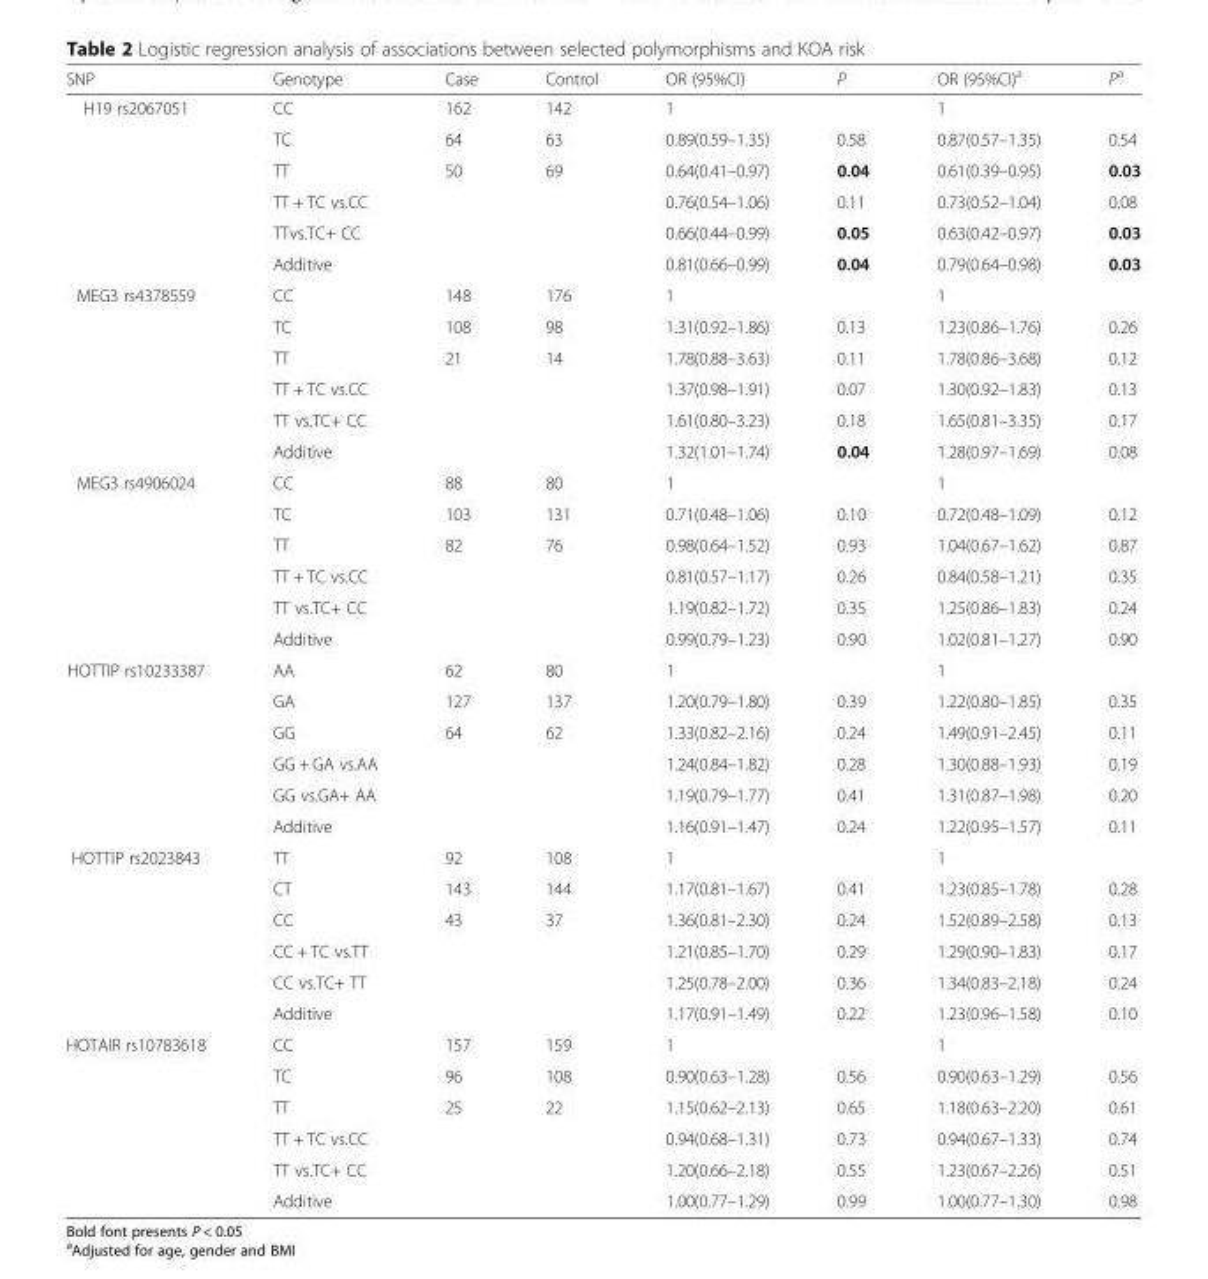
<table><thead><tr><td>SNP</td><td>Genotype</td><td>Case</td><td>Control</td><td>OR (95%CI)</td><td>P</td><td>OR (95%CI)<sup>a</sup></td><td>P<sup>a</sup></td></tr></thead><tbody><tr><td rowspan="6">H19 rs2067051</td><td>CC</td><td>162</td><td>142</td><td>1</td><td></td><td>1</td><td></td></tr><tr><td>TC</td><td>64</td><td>63</td><td>0.89(0.59–1.35)</td><td>0.58</td><td>0.87(0.57–1.35)</td><td>0.54</td></tr><tr><td>TT</td><td>50</td><td>69</td><td>0.64(0.41–0.97)</td><td>0.04</td><td>0.61(0.39–0.95)</td><td>0.03</td></tr><tr><td>TT + TC vs.CC</td><td></td><td></td><td>0.76(0.54–1.06)</td><td>0.11</td><td>0.73(0.52–1.04)</td><td>0.08</td></tr><tr><td>TTvs.TC+ CC</td><td></td><td></td><td>0.66(0.44–0.99)</td><td>0.05</td><td>0.63(0.42–0.97)</td><td>0.03</td></tr><tr><td>Additive</td><td></td><td></td><td>0.81(0.66–0.99)</td><td>0.04</td><td>0.79(0.64–0.98)</td><td>0.03</td></tr><tr><td rowspan="6">MEG3 rs4378559</td><td>CC</td><td>148</td><td>176</td><td>1</td><td></td><td>1</td><td></td></tr><tr><td>TC</td><td>108</td><td>98</td><td>1.31(0.92–1.86)</td><td>0.13</td><td>1.23(0.86–1.76)</td><td>0.26</td></tr><tr><td>TT</td><td>21</td><td>14</td><td>1.78(0.88–3.63)</td><td>0.11</td><td>1.78(0.86–3.68)</td><td>0.12</td></tr><tr><td>TT + TC vs.CC</td><td></td><td></td><td>1.37(0.98–1.91)</td><td>0.07</td><td>1.30(0.92–1.83)</td><td>0.13</td></tr><tr><td>TT vs.TC+ CC</td><td></td><td></td><td>1.61(0.80–3.23)</td><td>0.18</td><td>1.65(0.81–3.35)</td><td>0.17</td></tr><tr><td>Additive</td><td></td><td></td><td>1.32(1.01–1.74)</td><td>0.04</td><td>1.28(0.97–1.69)</td><td>0.08</td></tr><tr><td rowspan="6">MEG3 rs4906024</td><td>CC</td><td>88</td><td>80</td><td>1</td><td></td><td>1</td><td></td></tr><tr><td>TC</td><td>103</td><td>131</td><td>0.71(0.48–1.06)</td><td>0.10</td><td>0.72(0.48–1.09)</td><td>0.12</td></tr><tr><td>TT</td><td>82</td><td>76</td><td>0.98(0.64–1.52)</td><td>0.93</td><td>1.04(0.67–1.62)</td><td>0.87</td></tr><tr><td>TT + TC vs.CC</td><td></td><td></td><td>0.81(0.57–1.17)</td><td>0.26</td><td>0.84(0.58–1.21)</td><td>0.35</td></tr><tr><td>TT vs.TC+ CC</td><td></td><td></td><td>1.19(0.82–1.72)</td><td>0.35</td><td>1.25(0.86–1.83)</td><td>0.24</td></tr><tr><td>Additive</td><td></td><td></td><td>0.99(0.79–1.23)</td><td>0.90</td><td>1.02(0.81–1.27)</td><td>0.90</td></tr><tr><td rowspan="6">HOTTIP rs10233387</td><td>AA</td><td>62</td><td>80</td><td>1</td><td></td><td>1</td><td></td></tr><tr><td>GA</td><td>127</td><td>137</td><td>1.20(0.79–1.80)</td><td>0.39</td><td>1.22(0.80–1.85)</td><td>0.35</td></tr><tr><td>GG</td><td>64</td><td>62</td><td>1.33(0.82–2.16)</td><td>0.24</td><td>1.49(0.91–2.45)</td><td>0.11</td></tr><tr><td>GG + GA vs.AA</td><td></td><td></td><td>1.24(0.84–1.82)</td><td>0.28</td><td>1.30(0.88–1.93)</td><td>0.19</td></tr><tr><td>GG vs.GA+ AA</td><td></td><td></td><td>1.19(0.79–1.77)</td><td>0.41</td><td>1.31(0.87–1.98)</td><td>0.20</td></tr><tr><td>Additive</td><td></td><td></td><td>1.16(0.91–1.47)</td><td>0.24</td><td>1.22(0.95–1.57)</td><td>0.11</td></tr><tr><td rowspan="6">HOTTIP rs2023843</td><td>TT</td><td>92</td><td>108</td><td>1</td><td></td><td>1</td><td></td></tr><tr><td>CT</td><td>143</td><td>144</td><td>1.17(0.81–1.67)</td><td>0.41</td><td>1.23(0.85–1.78)</td><td>0.28</td></tr><tr><td>CC</td><td>43</td><td>37</td><td>1.36(0.81–2.30)</td><td>0.24</td><td>1.52(0.89–2.58)</td><td>0.13</td></tr><tr><td>CC + TC vs.TT</td><td></td><td></td><td>1.21(0.85–1.70)</td><td>0.29</td><td>1.29(0.90–1.83)</td><td>0.17</td></tr><tr><td>CC vs.TC+ TT</td><td></td><td></td><td>1.25(0.78–2.00)</td><td>0.36</td><td>1.34(0.83–2.18)</td><td>0.24</td></tr><tr><td>Additive</td><td></td><td></td><td>1.17(0.91–1.49)</td><td>0.22</td><td>1.23(0.96–1.58)</td><td>0.10</td></tr><tr><td rowspan="6">HOTAIR rs10783618</td><td>CC</td><td>157</td><td>159</td><td>1</td><td></td><td>1</td><td></td></tr><tr><td>TC</td><td>96</td><td>108</td><td>0.90(0.63–1.28)</td><td>0.56</td><td>0.90(0.63–1.29)</td><td>0.56</td></tr><tr><td>TT</td><td>25</td><td>22</td><td>1.15(0.62–2.13)</td><td>0.65</td><td>1.18(0.63–2.20)</td><td>0.61</td></tr><tr><td>TT + TC vs.CC</td><td></td><td></td><td>0.94(0.68–1.31)</td><td>0.73</td><td>0.94(0.67–1.33)</td><td>0.74</td></tr><tr><td>TT vs.TC+ CC</td><td></td><td></td><td>1.20(0.66–2.18)</td><td>0.55</td><td>1.23(0.67–2.26)</td><td>0.51</td></tr><tr><td>Additive</td><td></td><td></td><td>1.00(0.77–1.29)</td><td>0.99</td><td>1.00(0.77–1.30)</td><td>0.98</td></tr></tbody></table>